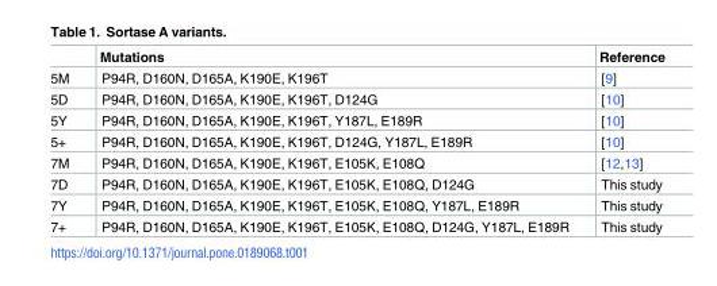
<table><thead><tr><td></td><td>Mutations</td><td>Reference</td></tr></thead><tbody><tr><td>5M</td><td>P94R, D160N, D165A, K190E, K196T</td><td>[9]</td></tr><tr><td>5D</td><td>P94R, D160N, D165A, K190E, K196T, D124G</td><td>[10]</td></tr><tr><td>5Y</td><td>P94R, D160N, D165A, K190E, K196T, Y187L, E189R</td><td>[10]</td></tr><tr><td>5+</td><td>P94R, D160N, D165A, K190E, K196T, D124G, Y187L, E189R</td><td>[10]</td></tr><tr><td>7M</td><td>P94R, D160N, D165A, K190E, K196T, E105K, E108Q</td><td>[12,13]</td></tr><tr><td>7D</td><td>P94R, D160N, D165A, K190E, K196T, E105K, E108Q, D124G</td><td>This study</td></tr><tr><td>7Y</td><td>P94R, D160N, D165A, K190E, K196T, E105K, E108Q, Y187L, E189R</td><td>This study</td></tr><tr><td>7+</td><td>P94R, D160N, D165A, K190E, K196T, E105K, E108Q, D124G, Y187L, E189R</td><td>This study</td></tr></tbody></table>